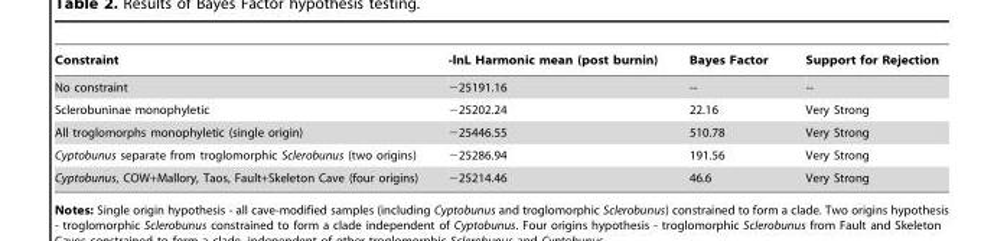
<table><thead><tr><td>Constraint</td><td>-lnL Harmonic mean (post burnin)</td><td>Bayes Factor</td><td>Support for Rejection</td></tr></thead><tbody><tr><td>No constraint</td><td>−25191.16</td><td>--</td><td>--</td></tr><tr><td>Sclerobuninae monophyletic</td><td>−25202.24</td><td>22.16</td><td>Very Strong</td></tr><tr><td>All troglomorphs monophyletic (single origin)</td><td>−25446.55</td><td>510.78</td><td>Very Strong</td></tr><tr><td>Cyptobunus separate from troglomorphic Sclerobunus (two origins)</td><td>−25286.94</td><td>191.56</td><td>Very Strong</td></tr><tr><td>Cyptobunus, COW+Mallory, Taos, Fault+Skeleton Cave (four origins)</td><td>−25214.46</td><td>46.6</td><td>Very Strong</td></tr></tbody></table>